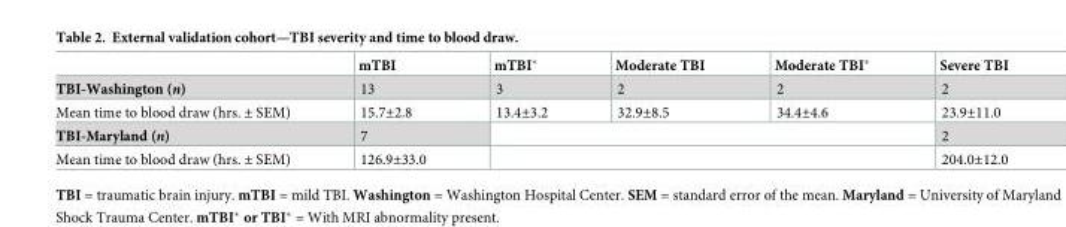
<table><thead><tr><td></td><td>mTBI</td><td>mTBI*</td><td>Moderate TBI</td><td>Moderate TBI*</td><td>Severe TBI</td></tr></thead><tbody><tr><td>TBI-Washington (n)</td><td>13</td><td>3</td><td>2</td><td>2</td><td>2</td></tr><tr><td>Mean time to blood draw (hrs. ± SEM)</td><td>15.7±2.8</td><td>13.4±3.2</td><td>32.9±8.5</td><td>34.4±4.6</td><td>23.9±11.0</td></tr><tr><td>TBI-Maryland (n)</td><td>7</td><td colspan="3"></td><td>2</td></tr><tr><td>Mean time to blood draw (hrs. ± SEM)</td><td>126.9±33.0</td><td colspan="3"></td><td>204.0±12.0</td></tr></tbody></table>